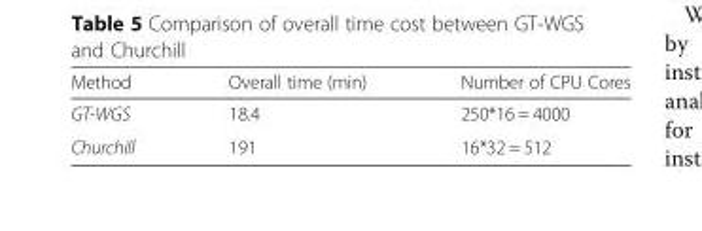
<table><thead><tr><td>Method</td><td>Overall time (min)</td><td>Number of CPU Cores</td></tr></thead><tbody><tr><td>GT-WGS</td><td>18.4</td><td>250*16 = 4000</td></tr><tr><td>Churchill</td><td>191</td><td>16*32 = 512</td></tr></tbody></table>